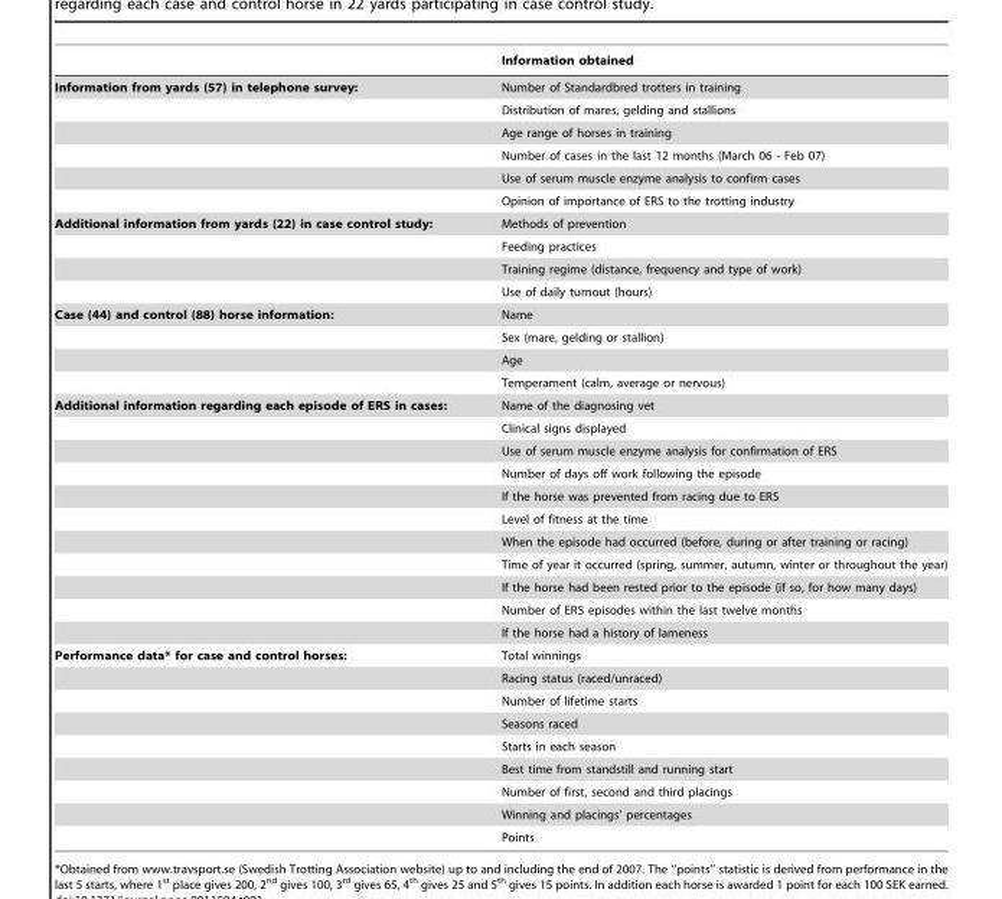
<table><thead><tr><td></td><td>Information obtained</td></tr></thead><tbody><tr><td rowspan="6">Information from yards (57) in telephone survey:</td><td>Number of Standardbred trotters in training</td></tr><tr><td>Distribution of mares, gelding and stallions</td></tr><tr><td>Age range of horses in training</td></tr><tr><td>Number of cases in the last 12 months (March 06 - Feb 07)</td></tr><tr><td>Use of serum muscle enzyme analysis to confirm cases</td></tr><tr><td>Opinion of importance of ERS to the trotting industry</td></tr><tr><td rowspan="4">Additional information from yards (22) in case control study:</td><td>Methods of prevention</td></tr><tr><td>Feeding practices</td></tr><tr><td>Training regime (distance, frequency and type of work)</td></tr><tr><td>Use of daily turnout (hours)</td></tr><tr><td rowspan="4">Case (44) and control (88) horse information:</td><td>Name</td></tr><tr><td>Sex (mare, gelding or stallion)</td></tr><tr><td>Age</td></tr><tr><td>Temperament (calm, average or nervous)</td></tr><tr><td rowspan="11">Additional information regarding each episode of ERS in cases:</td><td>Name of the diagnosing vet</td></tr><tr><td>Clinical signs displayed</td></tr><tr><td>Use of serum muscle enzyme analysis for confirmation of ERS</td></tr><tr><td>Number of days off work following the episode</td></tr><tr><td>If the horse was prevented from racing due to ERS</td></tr><tr><td>Level of fitness at the time</td></tr><tr><td>When the episode had occurred (before, during or after training or racing)</td></tr><tr><td>Time of year it occurred (spring, summer, autumn, winter or throughout the year)</td></tr><tr><td>If the horse had been rested prior to the episode (if so, for how many days)</td></tr><tr><td>Number of ERS episodes within the last twelve months</td></tr><tr><td>If the horse had a history of lameness</td></tr><tr><td rowspan="9">Performance data* for case and control horses:</td><td>Total winnings</td></tr><tr><td>Racing status (raced/unraced)</td></tr><tr><td>Number of lifetime starts</td></tr><tr><td>Seasons raced</td></tr><tr><td>Starts in each season</td></tr><tr><td>Best time from standstill and running start</td></tr><tr><td>Number of first, second and third placings</td></tr><tr><td>Winning and placings’ percentages</td></tr><tr><td>Points</td></tr></tbody></table>